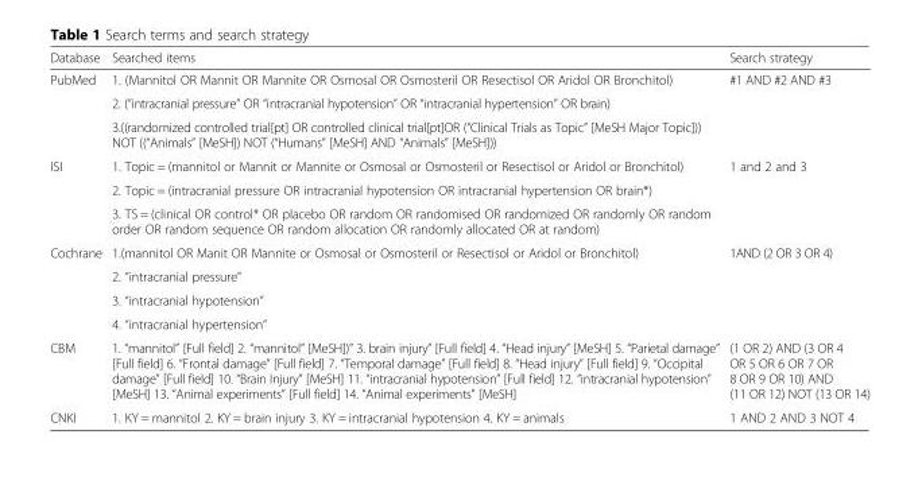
<table><thead><tr><td>Database</td><td>Searched items</td><td>Search strategy</td></tr></thead><tbody><tr><td rowspan="3">PubMed</td><td>1. (Mannitol OR Mannit OR Mannite OR Osmosal OR Osmosteril OR Resectisol OR Aridol OR Bronchitol)</td><td>#1 AND #2 AND #3</td></tr><tr><td>2. (“intracranial pressure” OR “intracranial hypotension” OR “intracranial hypertension” OR brain)</td><td></td></tr><tr><td>3.((randomized controlled trial[pt] OR controlled clinical trial[pt]OR (“Clinical Trials as Topic” [MeSH Major Topic])) NOT ((“Animals” [MeSH]) NOT (“Humans” [MeSH] AND “Animals” [MeSH]))</td><td></td></tr><tr><td rowspan="3">ISI</td><td>1. Topic = (mannitol or Mannit or Mannite or Osmosal or Osmosteril or Resectisol or Aridol or Bronchitol)</td><td>1 and 2 and 3</td></tr><tr><td>2. Topic = (intracranial pressure OR intracranial hypotension OR intracranial hypertension OR brain*)</td><td></td></tr><tr><td>3. TS = (clinical OR control* OR placebo OR random OR randomised OR randomized OR randomly OR random order OR random sequence OR random allocation OR randomly allocated OR at random)</td><td></td></tr><tr><td rowspan="4">Cochrane</td><td>1.(mannitol OR Manit OR Mannite or Osmosal or Osmosteril or Resectisol or Aridol or Bronchitol)</td><td>1AND (2 OR 3 OR 4)</td></tr><tr><td>2. “intracranial pressure”</td><td></td></tr><tr><td>3. “intracranial hypotension”</td><td></td></tr><tr><td>4. “intracranial hypertension”</td><td></td></tr><tr><td>CBM</td><td>1. “mannitol” [Full field] 2. “mannitol” [MeSH])” 3. brain injury” [Full field] 4. “Head injury” [MeSH] 5. “Parietal damage” [Full field] 6. “Frontal damage” [Full field] 7. “Temporal damage” [Full field] 8. “Head injury” [Full field] 9. “Occipital damage” [Full field] 10. “Brain Injury” [MeSH] 11. “intracranial hypotension” [Full field] 12. “intracranial hypotension” [MeSH] 13. “Animal experiments” [Full field] 14. “Animal experiments” [MeSH]</td><td>(1 OR 2) AND (3 OR 4 OR 5 OR 6 OR 7 OR 8 OR 9 OR 10) AND (11 OR 12) NOT (13 OR 14)</td></tr><tr><td>CNKI</td><td>1. KY = mannitol 2. KY = brain injury 3. KY = intracranial hypotension 4. KY = animals</td><td>1 AND 2 AND 3 NOT 4</td></tr></tbody></table>